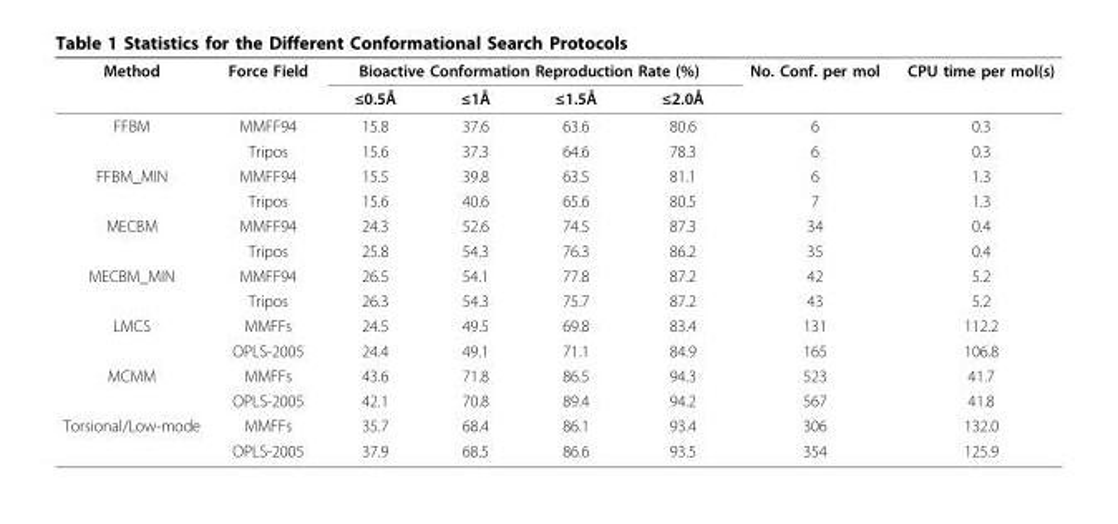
<table><thead><tr><td rowspan="2">Method</td><td rowspan="2">Force Field</td><td colspan="4">Bioactive Conformation Reproduction Rate (%)</td><td rowspan="2">No. Conf. per mol</td><td rowspan="2">CPU time per mol(s)</td></tr><tr><td>≤0.5Å</td><td>≤1Å</td><td>≤1.5Å</td><td>≤2.0Å</td></tr></thead><tbody><tr><td rowspan="2">FFBM</td><td>MMFF94</td><td>15.8</td><td>37.6</td><td>63.6</td><td>80.6</td><td>6</td><td>0.3</td></tr><tr><td>Tripos</td><td>15.6</td><td>37.3</td><td>64.6</td><td>78.3</td><td>6</td><td>0.3</td></tr><tr><td rowspan="2">FFBM_MIN</td><td>MMFF94</td><td>15.5</td><td>39.8</td><td>63.5</td><td>81.1</td><td>6</td><td>1.3</td></tr><tr><td>Tripos</td><td>15.6</td><td>40.6</td><td>65.6</td><td>80.5</td><td>7</td><td>1.3</td></tr><tr><td rowspan="2">MECBM</td><td>MMFF94</td><td>24.3</td><td>52.6</td><td>74.5</td><td>87.3</td><td>34</td><td>0.4</td></tr><tr><td>Tripos</td><td>25.8</td><td>54.3</td><td>76.3</td><td>86.2</td><td>35</td><td>0.4</td></tr><tr><td rowspan="2">MECBM_MIN</td><td>MMFF94</td><td>26.5</td><td>54.1</td><td>77.8</td><td>87.2</td><td>42</td><td>5.2</td></tr><tr><td>Tripos</td><td>26.3</td><td>54.3</td><td>75.7</td><td>87.2</td><td>43</td><td>5.2</td></tr><tr><td rowspan="2">LMCS</td><td>MMFFs</td><td>24.5</td><td>49.5</td><td>69.8</td><td>83.4</td><td>131</td><td>112.2</td></tr><tr><td>OPLS-2005</td><td>24.4</td><td>49.1</td><td>71.1</td><td>84.9</td><td>165</td><td>106.8</td></tr><tr><td rowspan="2">MCMM</td><td>MMFFs</td><td>43.6</td><td>71.8</td><td>86.5</td><td>94.3</td><td>523</td><td>41.7</td></tr><tr><td>OPLS-2005</td><td>42.1</td><td>70.8</td><td>89.4</td><td>94.2</td><td>567</td><td>41.8</td></tr><tr><td rowspan="2">Torsional/Low-mode</td><td>MMFFs</td><td>35.7</td><td>68.4</td><td>86.1</td><td>93.4</td><td>306</td><td>132.0</td></tr><tr><td>OPLS-2005</td><td>37.9</td><td>68.5</td><td>86.6</td><td>93.5</td><td>354</td><td>125.9</td></tr></tbody></table>